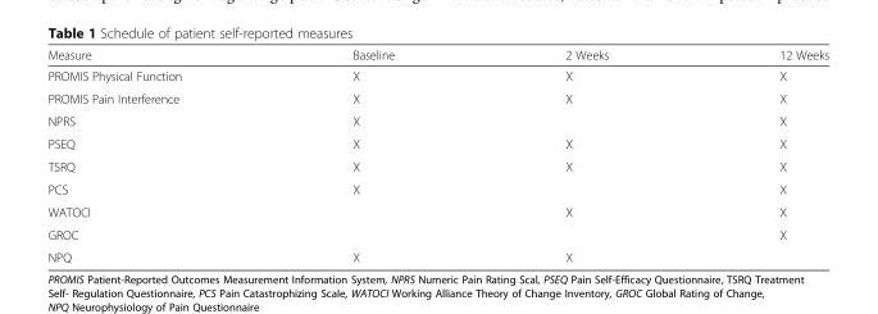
<table><thead><tr><td>Measure</td><td>Baseline</td><td>2 Weeks</td><td>12 Weeks</td></tr></thead><tbody><tr><td>PROMIS Physical Function</td><td>X</td><td>X</td><td>X</td></tr><tr><td>PROMIS Pain Interference</td><td>X</td><td>X</td><td>X</td></tr><tr><td>NPRS</td><td>X</td><td></td><td>X</td></tr><tr><td>PSEQ</td><td>X</td><td>X</td><td>X</td></tr><tr><td>TSRQ</td><td>X</td><td>X</td><td>X</td></tr><tr><td>PCS</td><td>X</td><td></td><td>X</td></tr><tr><td>WATOCI</td><td></td><td>X</td><td>X</td></tr><tr><td>GROC</td><td></td><td></td><td>X</td></tr><tr><td>NPQ</td><td>X</td><td>X</td><td></td></tr></tbody></table>